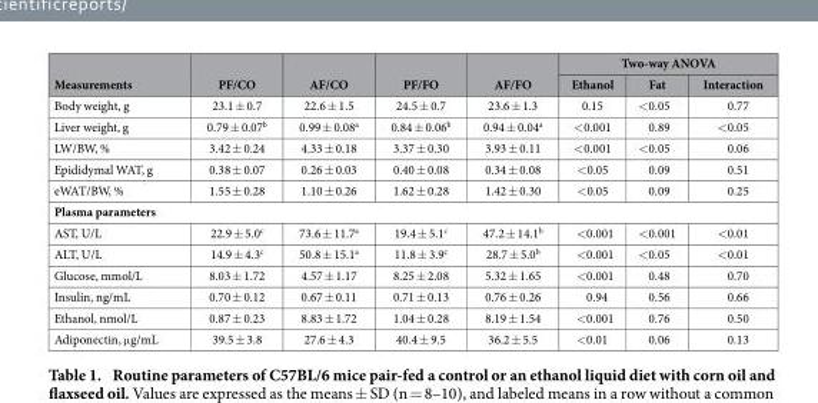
<table><thead><tr><td rowspan="2">Measurements</td><td rowspan="2">PF/CO</td><td rowspan="2">AF/CO</td><td rowspan="2">PF/FO</td><td rowspan="2">AF/FO</td><td colspan="3">Two-way ANOVA</td></tr><tr><td>Ethanol</td><td>Fat</td><td>Interaction</td></tr></thead><tbody><tr><td>Body weight, g</td><td>23.1 ± 0.7</td><td>22.6 ± 1.5</td><td>24.5 ± 0.7</td><td>23.6 ± 1.3</td><td>0.15</td><td>&lt; 0.05</td><td>0.77</td></tr><tr><td>Liver weight, g</td><td>0.79 ± 0.07<sup>b</sup></td><td>0.99 ± 0.08<sup>a</sup></td><td>0.84 ± 0.06<sup>b</sup></td><td>0.94 ± 0.04<sup>a</sup></td><td>&lt; 0.001</td><td>0.89</td><td>&lt; 0.05</td></tr><tr><td>LW/BW, %</td><td>3.42 ± 0.24</td><td>4.33 ± 0.18</td><td>3.37 ± 0.30</td><td>3.93 ± 0.11</td><td>&lt; 0.001</td><td>&lt; 0.05</td><td>0.06</td></tr><tr><td>Epididymal WAT, g</td><td>0.38 ± 0.07</td><td>0.26 ± 0.03</td><td>0.40 ± 0.08</td><td>0.34 ± 0.08</td><td>&lt; 0.05</td><td>0.09</td><td>0.51</td></tr><tr><td>eWAT/BW, %</td><td>1.55 ± 0.28</td><td>1.10 ± 0.26</td><td>1.62 ± 0.28</td><td>1.42 ± 0.30</td><td>&lt; 0.05</td><td>0.09</td><td>0.25</td></tr><tr><td colspan="8">Plasma parameters</td></tr><tr><td>AST, U/L</td><td>22.9 ± 5.0<sup>c</sup></td><td>73.6 ± 11.7<sup>a</sup></td><td>19.4 ± 5.1<sup>c</sup></td><td>47.2 ± 14.1<sup>b</sup></td><td>&lt; 0.001</td><td>&lt; 0.001</td><td>&lt; 0.01</td></tr><tr><td>ALT, U/L</td><td>14.9 ± 4.3<sup>c</sup></td><td>50.8 ± 15.1<sup>a</sup></td><td>11.8 ± 3.9<sup>c</sup></td><td>28.7 ± 5.0<sup>b</sup></td><td>&lt; 0.001</td><td>&lt; 0.05</td><td>&lt; 0.01</td></tr><tr><td>Glucose, mmol/L</td><td>8.03 ± 1.72</td><td>4.57 ± 1.17</td><td>8.25 ± 2.08</td><td>5.32 ± 1.65</td><td>&lt; 0.001</td><td>0.48</td><td>0.70</td></tr><tr><td>Insulin, ng/mL</td><td>0.70 ± 0.12</td><td>0.67 ± 0.11</td><td>0.71 ± 0.13</td><td>0.76 ± 0.26</td><td>0.94</td><td>0.56</td><td>0.66</td></tr><tr><td>Ethanol, nmol/L</td><td>0.87 ± 0.23</td><td>8.83 ± 1.72</td><td>1.04 ± 0.28</td><td>8.19 ± 1.54</td><td>&lt; 0.001</td><td>0.76</td><td>0.50</td></tr><tr><td>Adiponectin, μ g/mL</td><td>39.5 ± 3.8</td><td>27.6 ± 4.3</td><td>40.4 ± 9.5</td><td>36.2 ± 5.5</td><td>&lt; 0.01</td><td>0.06</td><td>0.13</td></tr></tbody></table>